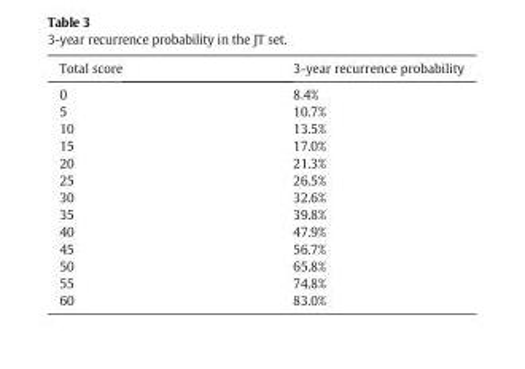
<table><thead><tr><td>Total score</td><td>3-year recurrence probability</td></tr></thead><tbody><tr><td>0</td><td>8.4%</td></tr><tr><td>5</td><td>10.7%</td></tr><tr><td>10</td><td>13.5%</td></tr><tr><td>15</td><td>17.0%</td></tr><tr><td>20</td><td>21.3%</td></tr><tr><td>25</td><td>26.5%</td></tr><tr><td>30</td><td>32.6%</td></tr><tr><td>35</td><td>39.8%</td></tr><tr><td>40</td><td>47.9%</td></tr><tr><td>45</td><td>56.7%</td></tr><tr><td>50</td><td>65.8%</td></tr><tr><td>55</td><td>74.8%</td></tr><tr><td>60</td><td>83.0%</td></tr></tbody></table>